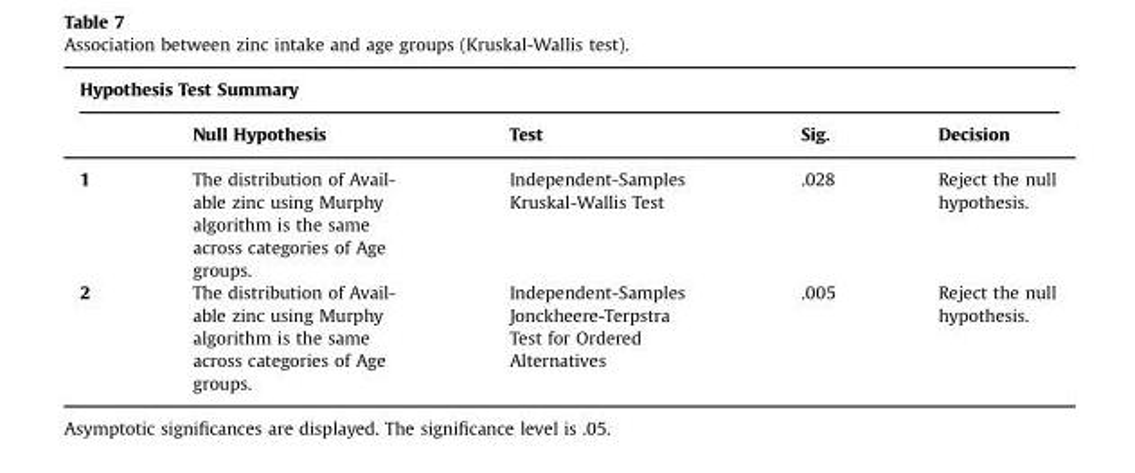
<table><thead><tr><td colspan="5">Hypothesis Test Summary</td></tr><tr><td></td><td>Null Hypothesis</td><td>Test</td><td>Sig.</td><td>Decision</td></tr></thead><tbody><tr><td>1</td><td>The distribution of Avail- able zinc using Murphy algorithm is the same across categories of Age groups.</td><td>Independent-Samples Kruskal-Wallis Test</td><td>.028</td><td>Reject the null hypothesis.</td></tr><tr><td>2</td><td>The distribution of Avail- able zinc using Murphy algorithm is the same across categories of Age groups.</td><td>Independent-Samples Jonckheere-Terpstra Test for Ordered Alternatives</td><td>.005</td><td>Reject the null hypothesis.</td></tr></tbody></table>